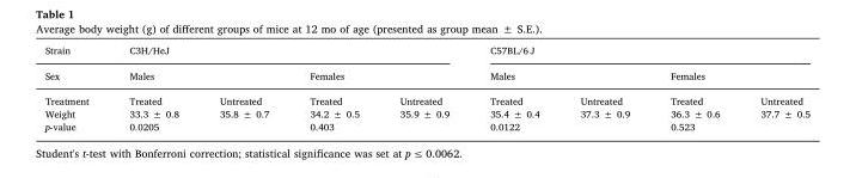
<table><thead><tr><td rowspan="3">Strain Sex Treatment</td><td colspan="4">C3H/HeJ</td><td colspan="4">C57BL/6 J</td></tr><tr><td colspan="2">Males</td><td colspan="2">Females</td><td colspan="2">Males</td><td colspan="2">Females</td></tr><tr><td>Treated</td><td>Untreated</td><td>Treated</td><td>Untreated</td><td>Treated</td><td>Untreated</td><td>Treated</td><td>Untreated</td></tr></thead><tbody><tr><td>Weight</td><td>33.3 ± 0.8</td><td>35.8 ± 0.7</td><td>34.2 ± 0.5</td><td>35.9 ± 0.9</td><td>35.4 ± 0.4</td><td>37.3 ± 0.9</td><td>36.3 ± 0.6</td><td>37.7 ± 0.5</td></tr><tr><td>p-value</td><td colspan="2">0.0205</td><td colspan="2">0.403</td><td colspan="2">0.0122</td><td colspan="2">0.523</td></tr></tbody></table>